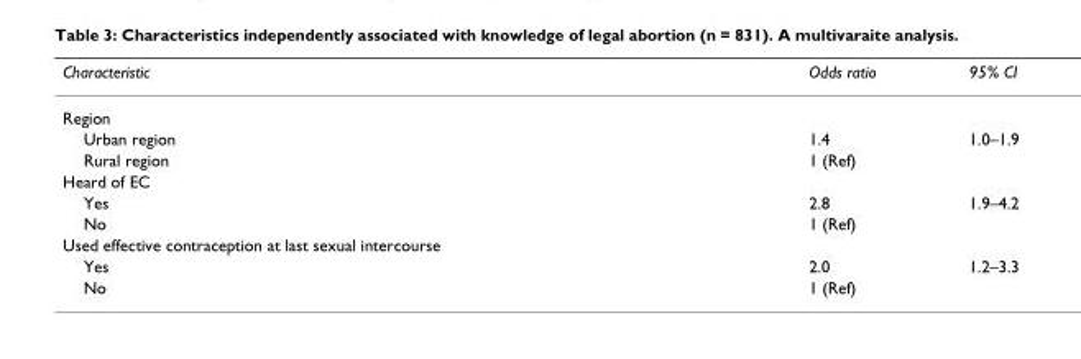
<table><thead><tr><td>Characteristic</td><td>Odds ratio</td><td>95% CI</td></tr></thead><tbody><tr><td colspan="3">Region</td></tr><tr><td>Urban region</td><td>1.4</td><td>1.0–1.9</td></tr><tr><td>Rural region</td><td>1 (Ref)</td><td></td></tr><tr><td colspan="3">Heard of EC</td></tr><tr><td>Yes</td><td>2.8</td><td>1.9–4.2</td></tr><tr><td>No</td><td>1 (Ref)</td><td></td></tr><tr><td colspan="3">Used effective contraception at last sexual intercourse</td></tr><tr><td>Yes</td><td>2.0</td><td>1.2–3.3</td></tr><tr><td>No</td><td>1 (Ref)</td><td></td></tr></tbody></table>